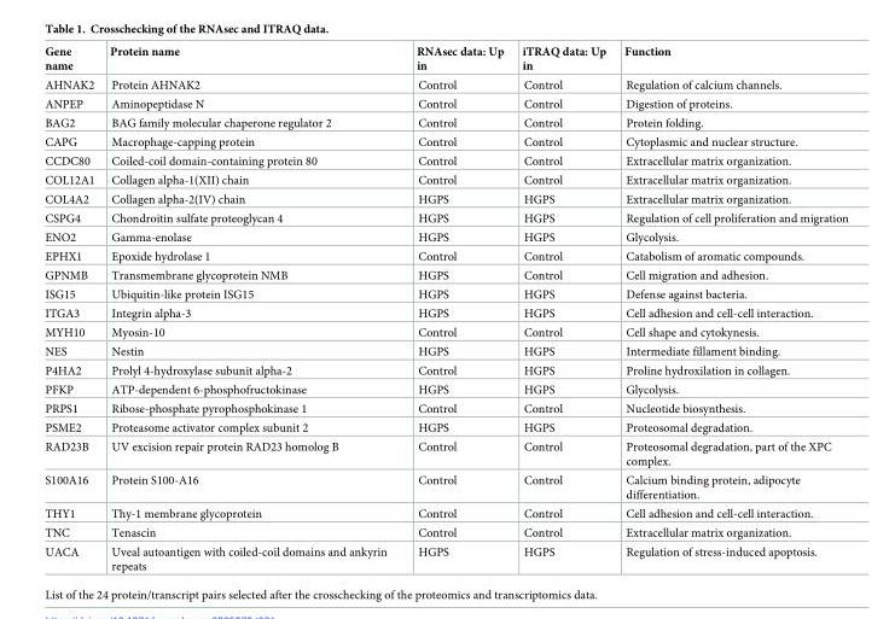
<table><thead><tr><td>Gene name</td><td>Protein name</td><td>RNAsec data: Up in</td><td>iTRAQ data: Up in</td><td>Function</td></tr></thead><tbody><tr><td>AHNAK2</td><td>Protein AHNAK2</td><td>Control</td><td>Control</td><td>Regulation of calcium channels.</td></tr><tr><td>ANPEP</td><td>Aminopeptidase N</td><td>Control</td><td>Control</td><td>Digestion of proteins.</td></tr><tr><td>BAG2</td><td>BAG family molecular chaperone regulator 2</td><td>Control</td><td>Control</td><td>Protein folding.</td></tr><tr><td>CAPG</td><td>Macrophage-capping protein</td><td>Control</td><td>Control</td><td>Cytoplasmic and nuclear structure.</td></tr><tr><td>CCDC80</td><td>Coiled-coil domain-containing protein 80</td><td>Control</td><td>Control</td><td>Extracellular matrix organization.</td></tr><tr><td>COL12A1</td><td>Collagen alpha-1(XII) chain</td><td>Control</td><td>Control</td><td>Extracellular matrix organization.</td></tr><tr><td>COL4A2</td><td>Collagen alpha-2(IV) chain</td><td>HGPS</td><td>HGPS</td><td>Extracellular matrix organization.</td></tr><tr><td>CSPG4</td><td>Chondroitin sulfate proteoglycan 4</td><td>HGPS</td><td>HGPS</td><td>Regulation of cell proliferation and migration</td></tr><tr><td>ENO2</td><td>Gamma-enolase</td><td>HGPS</td><td>HGPS</td><td>Glycolysis.</td></tr><tr><td>EPHX1</td><td>Epoxide hydrolase 1</td><td>Control</td><td>Control</td><td>Catabolism of aromatic compounds.</td></tr><tr><td>GPNMB</td><td>Transmembrane glycoprotein NMB</td><td>HGPS</td><td>Control</td><td>Cell migration and adhesion.</td></tr><tr><td>ISG15</td><td>Ubiquitin-like protein ISG15</td><td>HGPS</td><td>HGPS</td><td>Defense against bacteria.</td></tr><tr><td>ITGA3</td><td>Integrin alpha-3</td><td>HGPS</td><td>HGPS</td><td>Cell adhesion and cell-cell interaction.</td></tr><tr><td>MYH10</td><td>Myosin-10</td><td>Control</td><td>Control</td><td>Cell shape and cytokynesis.</td></tr><tr><td>NES</td><td>Nestin</td><td>HGPS</td><td>HGPS</td><td>Intermediate fillament binding.</td></tr><tr><td>P4HA2</td><td>Prolyl 4-hydroxylase subunit alpha-2</td><td>Control</td><td>HGPS</td><td>Proline hydroxilation in collagen.</td></tr><tr><td>PFKP</td><td>ATP-dependent 6-phosphofructokinase</td><td>HGPS</td><td>HGPS</td><td>Glycolysis.</td></tr><tr><td>PRPS1</td><td>Ribose-phosphate pyrophosphokinase 1</td><td>Control</td><td>Control</td><td>Nucleotide biosynthesis.</td></tr><tr><td>PSME2</td><td>Proteasome activator complex subunit 2</td><td>HGPS</td><td>HGPS</td><td>Proteosomal degradation.</td></tr><tr><td>RAD23B</td><td>UV excision repair protein RAD23 homolog B</td><td>Control</td><td>Control</td><td>Proteosomal degradation, part of the XPC complex.</td></tr><tr><td>S100A16</td><td>Protein S100-A16</td><td>Control</td><td>Control</td><td>Calcium binding protein, adipocyte differentiation.</td></tr><tr><td>THY1</td><td>Thy-1 membrane glycoprotein</td><td>Control</td><td>Control</td><td>Cell adhesion and cell-cell interaction.</td></tr><tr><td>TNC</td><td>Tenascin</td><td>Control</td><td>Control</td><td>Extracellular matrix organization.</td></tr><tr><td>UACA</td><td>Uveal autoantigen with coiled-coil domains and ankyrin repeats</td><td>HGPS</td><td>HGPS</td><td>Regulation of stress-induced apoptosis.</td></tr></tbody></table>